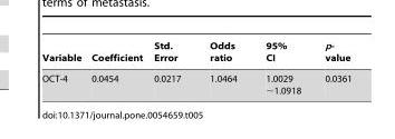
<table><thead><tr><td>Variable</td><td>Coefficient</td><td>Std. Error</td><td>Odds ratio</td><td>95% CI</td><td>p- value</td></tr></thead><tbody><tr><td>OCT-4</td><td>0.0454</td><td>0.0217</td><td>1.0464</td><td>1.0029 ∼1.0918</td><td>0.0361</td></tr></tbody></table>